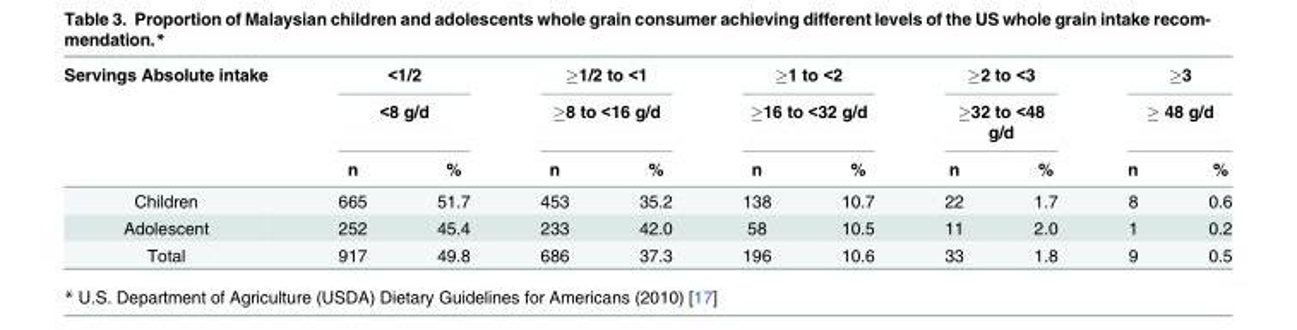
<table><thead><tr><td rowspan="3">Servings Absolute intake</td><td rowspan="2" colspan="2">&lt;1/2 &lt;8 g/d</td><td rowspan="2" colspan="2">≥1/2 to &lt;1 ≥8 to &lt;16 g/d</td><td rowspan="2" colspan="2">≥1 to &lt;2 ≥16 to &lt;32 g/d</td><td rowspan="2" colspan="2">≥2 to &lt;3 ≥32 to &lt;48 g/d</td><td rowspan="2" colspan="2">≥3 ≥ 48 g/d</td></tr><tr></tr><tr><td>n</td><td>%</td><td>n</td><td>%</td><td>n</td><td>%</td><td>n</td><td>%</td><td>n</td><td>%</td></tr></thead><tbody><tr><td>Children</td><td>665</td><td>51.7</td><td>453</td><td>35.2</td><td>138</td><td>10.7</td><td>22</td><td>1.7</td><td>8</td><td>0.6</td></tr><tr><td>Adolescent</td><td>252</td><td>45.4</td><td>233</td><td>42.0</td><td>58</td><td>10.5</td><td>11</td><td>2.0</td><td>1</td><td>0.2</td></tr><tr><td>Total</td><td>917</td><td>49.8</td><td>686</td><td>37.3</td><td>196</td><td>10.6</td><td>33</td><td>1.8</td><td>9</td><td>0.5</td></tr></tbody></table>